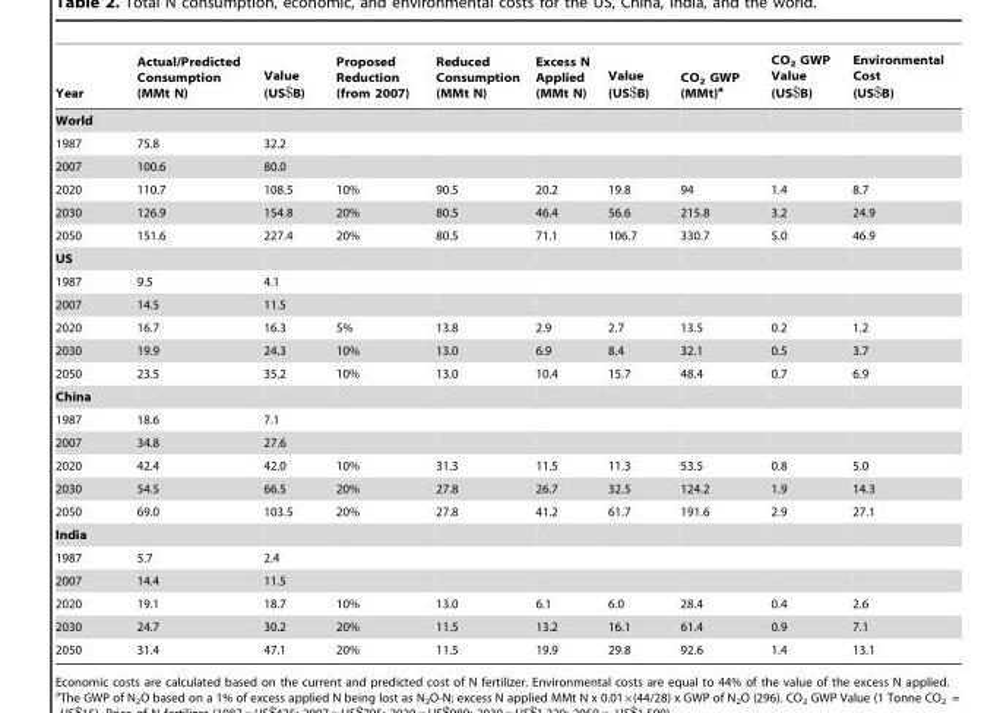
<table><thead><tr><td>Year</td><td>Actual/Predicted Consumption (MMt N)</td><td>Value (US$B)</td><td>Proposed Reduction (from 2007)</td><td>Reduced Consumption (MMt N)</td><td>Excess N Applied (MMt N)</td><td>Value (US$B)</td><td>CO<sub>2</sub> GWP (MMt)<sup>a</sup></td><td>CO<sub>2</sub> GWP Value (US$B)</td><td>Environmental Cost (US$B)</td></tr></thead><tbody><tr><td colspan="10">World</td></tr><tr><td>1987</td><td>75.8</td><td>32.2</td><td></td><td></td><td></td><td></td><td></td><td></td><td></td></tr><tr><td>2007</td><td>100.6</td><td>80.0</td><td></td><td></td><td></td><td></td><td></td><td></td><td></td></tr><tr><td>2020</td><td>110.7</td><td>108.5</td><td>10%</td><td>90.5</td><td>20.2</td><td>19.8</td><td>94</td><td>1.4</td><td>8.7</td></tr><tr><td>2030</td><td>126.9</td><td>154.8</td><td>20%</td><td>80.5</td><td>46.4</td><td>56.6</td><td>215.8</td><td>3.2</td><td>24.9</td></tr><tr><td>2050</td><td>151.6</td><td>227.4</td><td>20%</td><td>80.5</td><td>71.1</td><td>106.7</td><td>330.7</td><td>5.0</td><td>46.9</td></tr><tr><td colspan="10">US</td></tr><tr><td>1987</td><td>9.5</td><td>4.1</td><td></td><td></td><td></td><td></td><td></td><td></td><td></td></tr><tr><td>2007</td><td>14.5</td><td>11.5</td><td></td><td></td><td></td><td></td><td></td><td></td><td></td></tr><tr><td>2020</td><td>16.7</td><td>16.3</td><td>5%</td><td>13.8</td><td>2.9</td><td>2.7</td><td>13.5</td><td>0.2</td><td>1.2</td></tr><tr><td>2030</td><td>19.9</td><td>24.3</td><td>10%</td><td>13.0</td><td>6.9</td><td>8.4</td><td>32.1</td><td>0.5</td><td>3.7</td></tr><tr><td>2050</td><td>23.5</td><td>35.2</td><td>10%</td><td>13.0</td><td>10.4</td><td>15.7</td><td>48.4</td><td>0.7</td><td>6.9</td></tr><tr><td colspan="10">China</td></tr><tr><td>1987</td><td>18.6</td><td>7.1</td><td></td><td></td><td></td><td></td><td></td><td></td><td></td></tr><tr><td>2007</td><td>34.8</td><td>27.6</td><td></td><td></td><td></td><td></td><td></td><td></td><td></td></tr><tr><td>2020</td><td>42.4</td><td>42.0</td><td>10%</td><td>31.3</td><td>11.5</td><td>11.3</td><td>53.5</td><td>0.8</td><td>5.0</td></tr><tr><td>2030</td><td>54.5</td><td>66.5</td><td>20%</td><td>27.8</td><td>26.7</td><td>32.5</td><td>124.2</td><td>1.9</td><td>14.3</td></tr><tr><td>2050</td><td>69.0</td><td>103.5</td><td>20%</td><td>27.8</td><td>41.2</td><td>61.7</td><td>191.6</td><td>2.9</td><td>27.1</td></tr><tr><td colspan="10">India</td></tr><tr><td>1987</td><td>5.7</td><td>2.4</td><td></td><td></td><td></td><td></td><td></td><td></td><td></td></tr><tr><td>2007</td><td>14.4</td><td>11.5</td><td></td><td></td><td></td><td></td><td></td><td></td><td></td></tr><tr><td>2020</td><td>19.1</td><td>18.7</td><td>10%</td><td>13.0</td><td>6.1</td><td>6.0</td><td>28.4</td><td>0.4</td><td>2.6</td></tr><tr><td>2030</td><td>24.7</td><td>30.2</td><td>20%</td><td>11.5</td><td>13.2</td><td>16.1</td><td>61.4</td><td>0.9</td><td>7.1</td></tr><tr><td>2050</td><td>31.4</td><td>47.1</td><td>20%</td><td>11.5</td><td>19.9</td><td>29.8</td><td>92.6</td><td>1.4</td><td>13.1</td></tr></tbody></table>